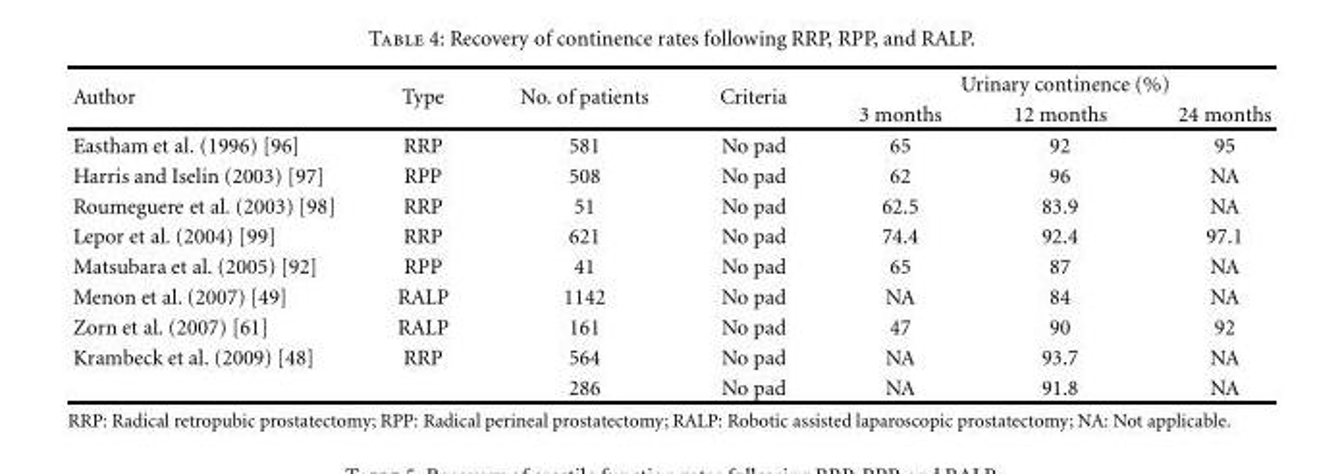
<table><thead><tr><td rowspan="2">Author</td><td rowspan="2">Type</td><td rowspan="2">No. of patients</td><td rowspan="2">Criteria</td><td colspan="3">Urinary continence (%)</td></tr><tr><td>3 months</td><td>12 months</td><td>24 months</td></tr></thead><tbody><tr><td>Eastham et al. (1996) [96]</td><td>RRP</td><td>581</td><td>No pad</td><td>65</td><td>92</td><td>95</td></tr><tr><td>Harris and Iselin (2003) [97]</td><td>RPP</td><td>508</td><td>No pad</td><td>62</td><td>96</td><td>NA</td></tr><tr><td>Roumeguere et al. (2003) [98]</td><td>RRP</td><td>51</td><td>No pad</td><td>62.5</td><td>83.9</td><td>NA</td></tr><tr><td>Lepor et al. (2004) [99]</td><td>RRP</td><td>621</td><td>No pad</td><td>74.4</td><td>92.4</td><td>97.1</td></tr><tr><td>Matsubara et al. (2005) [92]</td><td>RPP</td><td>41</td><td>No pad</td><td>65</td><td>87</td><td>NA</td></tr><tr><td>Menon et al. (2007) [49]</td><td>RALP</td><td>1142</td><td>No pad</td><td>NA</td><td>84</td><td>NA</td></tr><tr><td>Zorn et al. (2007) [61]</td><td>RALP</td><td>161</td><td>No pad</td><td>47</td><td>90</td><td>92</td></tr><tr><td rowspan="2">Krambeck et al. (2009) [48]</td><td>RRP</td><td>564</td><td>No pad</td><td>NA</td><td>93.7</td><td>NA</td></tr><tr><td></td><td>286</td><td>No pad</td><td>NA</td><td>91.8</td><td>NA</td></tr></tbody></table>